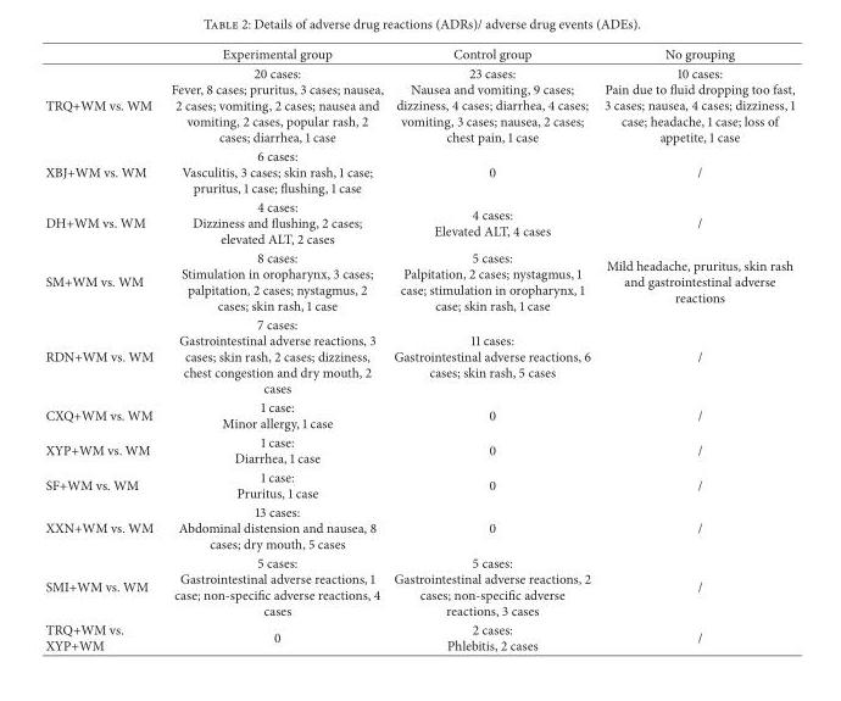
<table><thead><tr><td></td><td>Experimental group</td><td>Control group</td><td>No grouping</td></tr></thead><tbody><tr><td>TRQ+WM vs. WM</td><td>20 cases: Fever, 8 cases; pruritus, 3 cases; nausea, 2 cases; vomiting, 2 cases; nausea and vomiting, 2 cases, popular rash, 2 cases; diarrhea, 1 case</td><td>23 cases: Nausea and vomiting, 9 cases; dizziness, 4 cases; diarrhea, 4 cases; vomiting, 3 cases; nausea, 2 cases; chest pain, 1 case</td><td>10 cases: Pain due to fluid dropping too fast, 3 cases; nausea, 4 cases; dizziness, 1 case; headache, 1 case; loss of appetite, 1 case</td></tr><tr><td>XBJ+WM vs. WM</td><td>6 cases: Vasculitis, 3 cases; skin rash, 1 case; pruritus, 1 case; flushing, 1 case</td><td>0</td><td>/</td></tr><tr><td>DH+WM vs. WM</td><td>4 cases: Dizziness and flushing, 2 cases; elevated ALT, 2 cases</td><td>4 cases: Elevated ALT, 4 cases</td><td>/</td></tr><tr><td>SM+WM vs. WM</td><td>8 cases: Stimulation in oropharynx, 3 cases; palpitation, 2 cases; nystagmus, 2 cases; skin rash, 1 case</td><td>5 cases: Palpitation, 2 cases; nystagmus, 1 case; stimulation in oropharynx, 1 case; skin rash, 1 case</td><td>Mild headache, pruritus, skin rash and gastrointestinal adverse reactions</td></tr><tr><td>RDN+WM vs. WM</td><td>7 cases: Gastrointestinal adverse reactions, 3 cases; skin rash, 2 cases; dizziness, chest congestion and dry mouth, 2 cases</td><td>11 cases: Gastrointestinal adverse reactions, 6 cases; skin rash, 5 cases</td><td>/</td></tr><tr><td>CXQ+WM vs. WM</td><td>1 case: Minor allergy, 1 case</td><td>0</td><td>/</td></tr><tr><td>XYP+WM vs. WM</td><td>1 case: Diarrhea, 1 case</td><td>0</td><td>/</td></tr><tr><td>SF+WM vs. WM</td><td>1 case: Pruritus, 1 case</td><td>0</td><td>/</td></tr><tr><td>XXN+WM vs. WM</td><td>13 cases: Abdominal distension and nausea, 8 cases; dry mouth, 5 cases</td><td>0</td><td>/</td></tr><tr><td>SMI+WM vs. WM</td><td>5 cases: Gastrointestinal adverse reactions, 1 case; non-specific adverse reactions, 4 cases</td><td>5 cases: Gastrointestinal adverse reactions, 2 cases; non-specific adverse reactions, 3 cases</td><td>/</td></tr><tr><td>TRQ+WM vs. XYP+WM</td><td>0</td><td>2 cases: Phlebitis, 2 cases</td><td>/</td></tr></tbody></table>